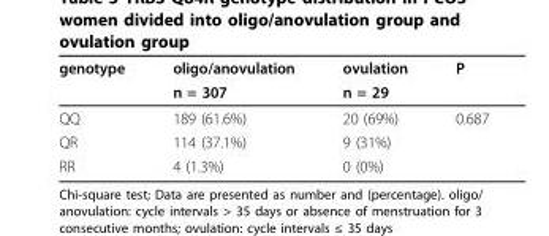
<table><thead><tr><td rowspan="2">genotype</td><td rowspan="2">oligo/anovulation n = 307</td><td rowspan="2">ovulation n = 29</td><td rowspan="2">P</td></tr><tr></tr></thead><tbody><tr><td>QQ</td><td>189 (61.6%)</td><td>20 (69%)</td><td>0.687</td></tr><tr><td>QR</td><td>114 (37.1%)</td><td>9 (31%)</td><td></td></tr><tr><td>RR</td><td>4 (1.3%)</td><td>0 (0%)</td><td></td></tr></tbody></table>